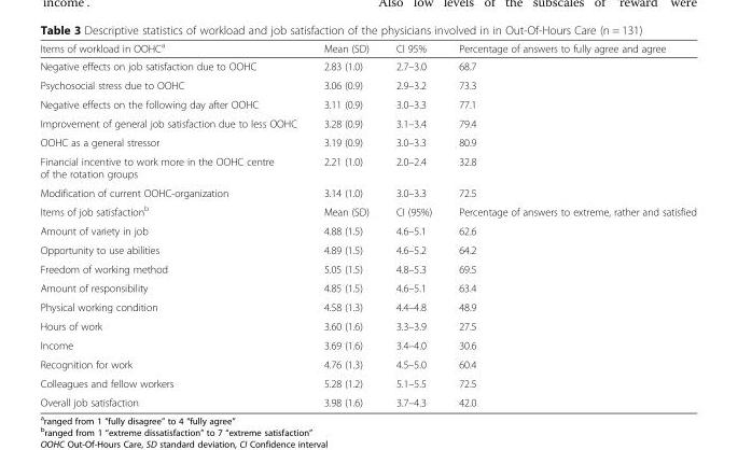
<table><thead><tr><td>Items of workload in OOHC<sup>a</sup></td><td>Mean (SD)</td><td>CI 95%</td><td>Percentage of answers to fully agree and agree</td></tr></thead><tbody><tr><td>Negative effects on job satisfaction due to OOHC</td><td>2.83 (1.0)</td><td>2.7–3.0</td><td>68.7</td></tr><tr><td>Psychosocial stress due to OOHC</td><td>3.06 (0.9)</td><td>2.9–3.2</td><td>73.3</td></tr><tr><td>Negative effects on the following day after OOHC</td><td>3.11 (0.9)</td><td>3.0–3.3</td><td>77.1</td></tr><tr><td>Improvement of general job satisfaction due to less OOHC</td><td>3.28 (0.9)</td><td>3.1–3.4</td><td>79.4</td></tr><tr><td>OOHC as a general stressor</td><td>3.19 (0.9)</td><td>3.0–3.3</td><td>80.9</td></tr><tr><td>Financial incentive to work more in the OOHC centre of the rotation groups</td><td>2.21 (1.0)</td><td>2.0–2.4</td><td>32.8</td></tr><tr><td>Modification of current OOHC-organization</td><td>3.14 (1.0)</td><td>3.0–3.3</td><td>72.5</td></tr><tr><td>Items of job satisfaction<sup>b</sup></td><td>Mean (SD)</td><td>CI (95%)</td><td>Percentage of answers to extreme, rather and satisfied</td></tr><tr><td>Amount of variety in job</td><td>4.88 (1.5)</td><td>4.6–5.1</td><td>62.6</td></tr><tr><td>Opportunity to use abilities</td><td>4.89 (1.5)</td><td>4.6–5.2</td><td>64.2</td></tr><tr><td>Freedom of working method</td><td>5.05 (1.5)</td><td>4.8–5.3</td><td>69.5</td></tr><tr><td>Amount of responsibility</td><td>4.85 (1.5)</td><td>4.6–5.1</td><td>63.4</td></tr><tr><td>Physical working condition</td><td>4.58 (1.3)</td><td>4.4–4.8</td><td>48.9</td></tr><tr><td>Hours of work</td><td>3.60 (1.6)</td><td>3.3–3.9</td><td>27.5</td></tr><tr><td>Income</td><td>3.69 (1.6)</td><td>3.4–4.0</td><td>30.6</td></tr><tr><td>Recognition for work</td><td>4.76 (1.3)</td><td>4.5–5.0</td><td>60.4</td></tr><tr><td>Colleagues and fellow workers</td><td>5.28 (1.2)</td><td>5.1–5.5</td><td>72.5</td></tr><tr><td>Overall job satisfaction</td><td>3.98 (1.6)</td><td>3.7–4.3</td><td>42.0</td></tr></tbody></table>